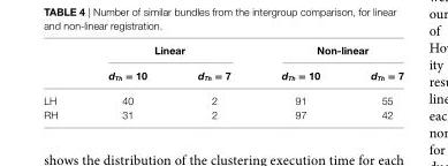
<table><thead><tr><td rowspan="2"></td><td colspan="2">linear</td><td colspan="2">non-linear</td></tr><tr><td>d<sub>Th</sub> = 10</td><td>d<sub>Th</sub> = 7</td><td>d<sub>Th</sub> = 10</td><td>d<sub>Th</sub> = 7</td></tr></thead><tbody><tr><td>LH</td><td>40</td><td>2</td><td>91</td><td>55</td></tr><tr><td>RH</td><td>31</td><td>2</td><td>97</td><td>42</td></tr></tbody></table>